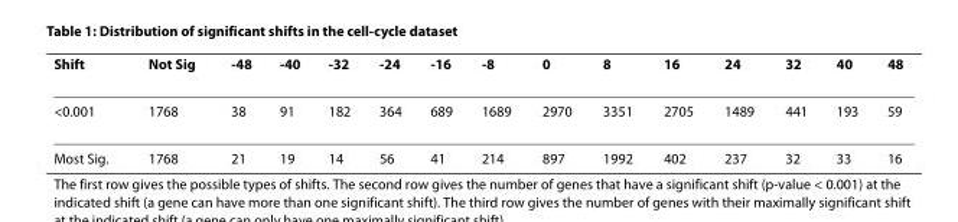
<table><thead><tr><td>Shift</td><td>Not Sig</td><td>-48</td><td>-40</td><td>-32</td><td>-24</td><td>-16</td><td>-8</td><td>0</td><td>8</td><td>16</td><td>24</td><td>32</td><td>40</td><td>48</td></tr></thead><tbody><tr><td>&lt;0.001</td><td>1768</td><td>38</td><td>91</td><td>182</td><td>364</td><td>689</td><td>1689</td><td>2970</td><td>3351</td><td>2705</td><td>1489</td><td>441</td><td>193</td><td>59</td></tr><tr><td>Most Sig.</td><td>1768</td><td>21</td><td>19</td><td>14</td><td>56</td><td>41</td><td>214</td><td>897</td><td>1992</td><td>402</td><td>237</td><td>32</td><td>33</td><td>16</td></tr></tbody></table>